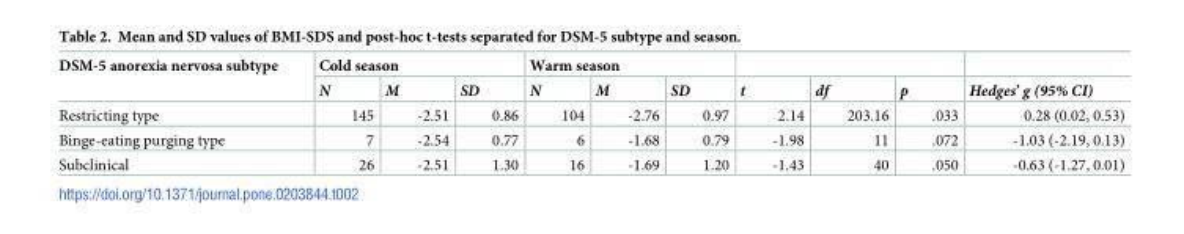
<table><thead><tr><td rowspan="2">DSM-5 anorexia nervosa subtype</td><td colspan="3">Cold season</td><td colspan="3">Warm season</td><td rowspan="2">t</td><td rowspan="2">df</td><td rowspan="2">p</td><td rowspan="2">Hedges’ g (95% CI)</td></tr><tr><td>N</td><td>M</td><td>SD</td><td>N</td><td>M</td><td>SD</td></tr></thead><tbody><tr><td>Restricting type</td><td>145</td><td>-2.51</td><td>0.86</td><td>104</td><td>-2.76</td><td>0.97</td><td>2.14</td><td>203.16</td><td>.033</td><td>0.28 (0.02, 0.53)</td></tr><tr><td>Binge-eating purging type</td><td>7</td><td>-2.54</td><td>0.77</td><td>6</td><td>-1.68</td><td>0.79</td><td>-1.98</td><td>11</td><td>.072</td><td>-1.03 (-2.19, 0.13)</td></tr><tr><td>Subclinical</td><td>26</td><td>-2.51</td><td>1.30</td><td>16</td><td>-1.69</td><td>1.20</td><td>-1.43</td><td>40</td><td>.050</td><td>-0.63 (-1.27, 0.01)</td></tr></tbody></table>